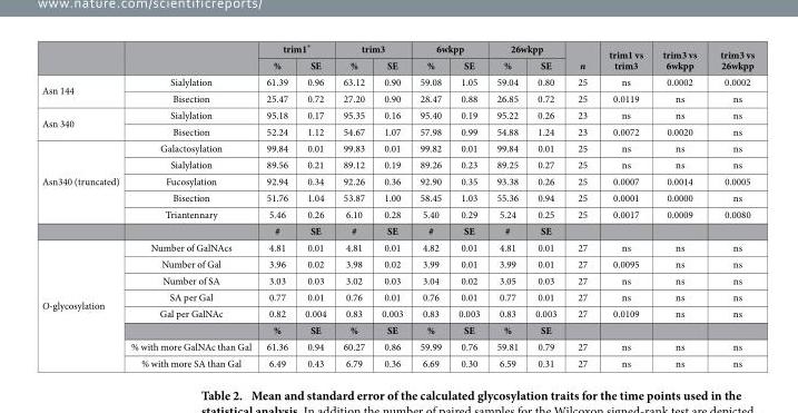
<table><thead><tr><td rowspan="2"></td><td rowspan="2"></td><td colspan="2">trim1*</td><td colspan="2">trim3</td><td colspan="2">6wkpp</td><td colspan="2">26wkpp</td><td rowspan="2">n</td><td rowspan="2">trim1 vs trim3</td><td rowspan="2">trim3 vs 6wkpp</td><td rowspan="2">trim3 vs 26wkpp</td></tr><tr><td>%</td><td>SE</td><td>%</td><td>SE</td><td>%</td><td>SE</td><td>%</td><td>SE</td></tr></thead><tbody><tr><td rowspan="2">Asn 144</td><td>Sialylation</td><td>61.39</td><td>0.96</td><td>63.12</td><td>0.90</td><td>59.08</td><td>1.05</td><td>59.04</td><td>0.80</td><td>25</td><td>ns</td><td>0.0002</td><td>0.0002</td></tr><tr><td>Bisection</td><td>25.47</td><td>0.72</td><td>27.20</td><td>0.90</td><td>28.47</td><td>0.88</td><td>26.85</td><td>0.72</td><td>25</td><td>0.0119</td><td>ns</td><td>ns</td></tr><tr><td rowspan="2">Asn 340</td><td>Sialylation</td><td>95.18</td><td>0.17</td><td>95.35</td><td>0.16</td><td>95.40</td><td>0.19</td><td>95.22</td><td>0.26</td><td>23</td><td>ns</td><td>ns</td><td>ns</td></tr><tr><td>Bisection</td><td>52.24</td><td>1.12</td><td>54.67</td><td>1.07</td><td>57.98</td><td>0.99</td><td>54.88</td><td>1.24</td><td>23</td><td>0.0072</td><td>0.0020</td><td>ns</td></tr><tr><td rowspan="6">Asn340 (truncated)</td><td>Galactosylation</td><td>99.84</td><td>0.01</td><td>99.83</td><td>0.01</td><td>99.82</td><td>0.01</td><td>99.84</td><td>0.01</td><td>25</td><td>ns</td><td>ns</td><td>ns</td></tr><tr><td>Sialylation</td><td>89.56</td><td>0.21</td><td>89.12</td><td>0.19</td><td>89.26</td><td>0.23</td><td>89.25</td><td>0.27</td><td>25</td><td>ns</td><td>ns</td><td>ns</td></tr><tr><td>Fucosylation</td><td>92.94</td><td>0.34</td><td>92.26</td><td>0.36</td><td>92.90</td><td>0.35</td><td>93.38</td><td>0.26</td><td>25</td><td>0.0007</td><td>0.0014</td><td>0.0005</td></tr><tr><td>Bisection</td><td>51.76</td><td>1.04</td><td>53.87</td><td>1.00</td><td>58.45</td><td>1.03</td><td>55.36</td><td>0.94</td><td>25</td><td>0.0001</td><td>0.0000</td><td>ns</td></tr><tr><td>Triantennary</td><td>5.46</td><td>0.26</td><td>6.10</td><td>0.28</td><td>5.40</td><td>0.29</td><td>5.24</td><td>0.25</td><td>25</td><td>0.0017</td><td>0.0009</td><td>0.0080</td></tr><tr><td></td><td>#</td><td>SE</td><td>#</td><td>SE</td><td>#</td><td>SE</td><td>#</td><td>SE</td><td></td><td></td><td></td><td></td></tr><tr><td rowspan="8">O-glycosylation</td><td>Number of GalNAcs</td><td>4.81</td><td>0.01</td><td>4.81</td><td>0.01</td><td>4.82</td><td>0.01</td><td>4.81</td><td>0.01</td><td>27</td><td>ns</td><td>ns</td><td>ns</td></tr><tr><td>Number of Gal</td><td>3.96</td><td>0.02</td><td>3.98</td><td>0.02</td><td>3.99</td><td>0.01</td><td>3.99</td><td>0.01</td><td>27</td><td>0.0095</td><td>ns</td><td>ns</td></tr><tr><td>Number of SA</td><td>3.03</td><td>0.03</td><td>3.02</td><td>0.03</td><td>3.04</td><td>0.02</td><td>3.05</td><td>0.03</td><td>27</td><td>ns</td><td>ns</td><td>ns</td></tr><tr><td>SA per Gal</td><td>0.77</td><td>0.01</td><td>0.76</td><td>0.01</td><td>0.76</td><td>0.01</td><td>0.77</td><td>0.01</td><td>27</td><td>ns</td><td>ns</td><td>ns</td></tr><tr><td>Gal per GalNAc</td><td>0.82</td><td>0.004</td><td>0.83</td><td>0.003</td><td>0.83</td><td>0.003</td><td>0.83</td><td>0.003</td><td>27</td><td>0.0109</td><td>ns</td><td>ns</td></tr><tr><td></td><td>%</td><td>SE</td><td>%</td><td>SE</td><td>%</td><td>SE</td><td>%</td><td>SE</td><td></td><td></td><td></td><td></td></tr><tr><td>% with more GalNAc than Gal</td><td>61.36</td><td>0.94</td><td>60.27</td><td>0.86</td><td>59.99</td><td>0.76</td><td>59.81</td><td>0.79</td><td>27</td><td>ns</td><td>ns</td><td>ns</td></tr><tr><td>% with more SA than Gal</td><td>6.49</td><td>0.43</td><td>6.79</td><td>0.36</td><td>6.69</td><td>0.30</td><td>6.59</td><td>0.31</td><td>27</td><td>ns</td><td>ns</td><td>ns</td></tr></tbody></table>